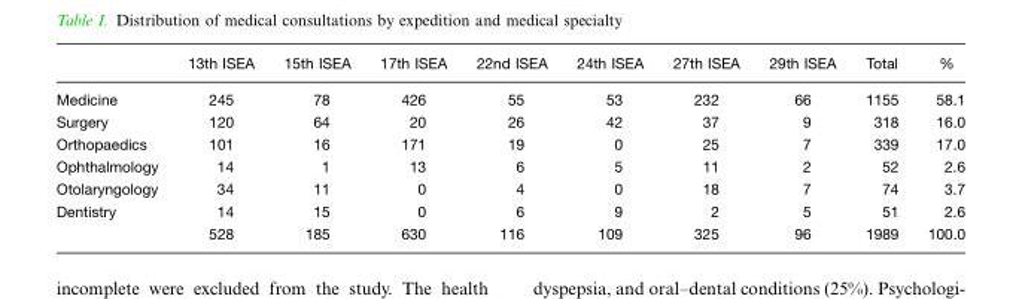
<table><thead><tr><td></td><td>13th ISEA</td><td>15th ISEA</td><td>17th ISEA</td><td>22nd ISEA</td><td>24th ISEA</td><td>27th ISEA</td><td>29th ISEA</td><td>Total</td><td>%</td></tr></thead><tbody><tr><td>Medicine</td><td>245</td><td>78</td><td>426</td><td>55</td><td>53</td><td>232</td><td>66</td><td>1155</td><td>58.1</td></tr><tr><td>Surgery</td><td>120</td><td>64</td><td>20</td><td>26</td><td>42</td><td>37</td><td>9</td><td>318</td><td>16.0</td></tr><tr><td>Orthopaedics</td><td>101</td><td>16</td><td>171</td><td>19</td><td>0</td><td>25</td><td>7</td><td>339</td><td>17.0</td></tr><tr><td>Ophthalmology</td><td>14</td><td>1</td><td>13</td><td>6</td><td>5</td><td>11</td><td>2</td><td>52</td><td>2.6</td></tr><tr><td>Otolaryngology</td><td>34</td><td>11</td><td>0</td><td>4</td><td>0</td><td>18</td><td>7</td><td>74</td><td>3.7</td></tr><tr><td rowspan="2">Dentistry</td><td>14</td><td>15</td><td>0</td><td>6</td><td>9</td><td>2</td><td>5</td><td>51</td><td>2.6</td></tr><tr><td>528</td><td>185</td><td>630</td><td>116</td><td>109</td><td>325</td><td>96</td><td>1989</td><td>100.0</td></tr></tbody></table>